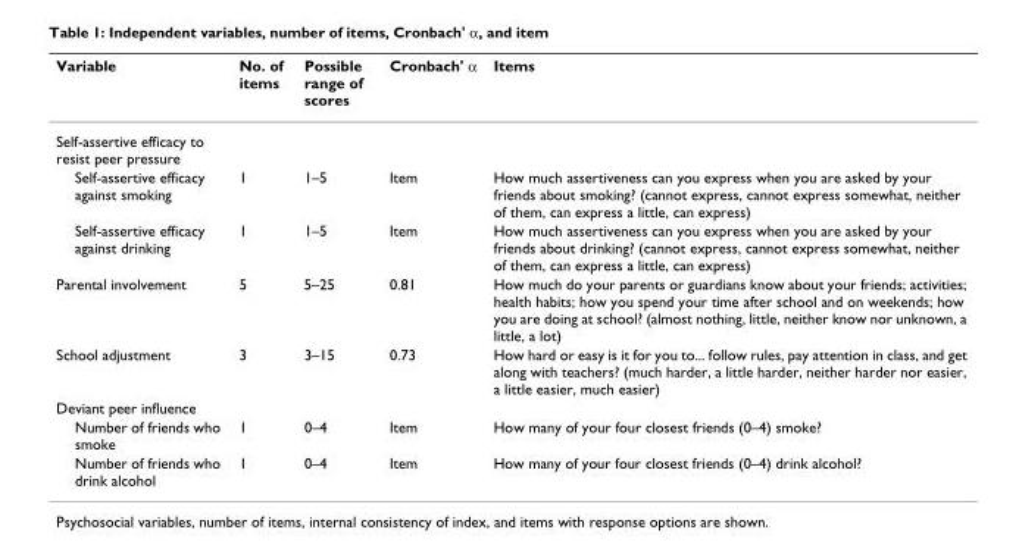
<table><thead><tr><td>Variable</td><td>No. of items</td><td>Possible range of scores</td><td>Cronbach&#x27; α</td><td>Items</td></tr></thead><tbody><tr><td colspan="5">Self-assertive efficacy to resist peer pressure</td></tr><tr><td>Self-assertive efficacy against smoking</td><td>1</td><td>1–5</td><td>Item</td><td>How much assertiveness can you express when you are asked by your friends about smoking? (cannot express, cannot express somewhat, neither of them, can express a little, can express)</td></tr><tr><td>Self-assertive efficacy against drinking</td><td>1</td><td>1–5</td><td>Item</td><td>How much assertiveness can you express when you are asked by your friends about drinking? (cannot express, cannot express somewhat, neither of them, can express a little, can express)</td></tr><tr><td>Parental involvement</td><td>5</td><td>5–25</td><td>0.81</td><td>How much do your parents or guardians know about your friends; activities; health habits; how you spend your time after school and on weekends; how you are doing at school? (almost nothing, little, neither know nor unknown, a little, a lot)</td></tr><tr><td>School adjustment</td><td>3</td><td>3–15</td><td>0.73</td><td>How hard or easy is it for you to... follow rules, pay attention in class, and get along with teachers? (much harder, a little harder, neither harder nor easier, a little easier, much easier)</td></tr><tr><td colspan="5">Deviant peer influence</td></tr><tr><td>Number of friends who smoke</td><td>1</td><td>0–4</td><td>Item</td><td>How many of your four closest friends (0–4) smoke?</td></tr><tr><td>Number of friends who drink alcohol</td><td>1</td><td>0–4</td><td>Item</td><td>How many of your four closest friends (0–4) drink alcohol?</td></tr></tbody></table>